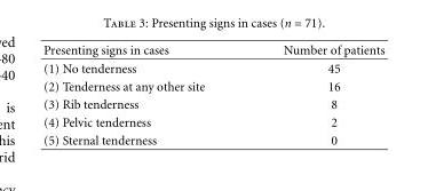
<table><thead><tr><td>Presenting signs in cases</td><td>Number of patients</td></tr></thead><tbody><tr><td>(1) No tenderness</td><td>45</td></tr><tr><td>(2) Tenderness at any other site</td><td>16</td></tr><tr><td>(3) Rib tenderness</td><td>8</td></tr><tr><td>(4) Pelvic tenderness</td><td>2</td></tr><tr><td>(5) Sternal tenderness</td><td>0</td></tr></tbody></table>